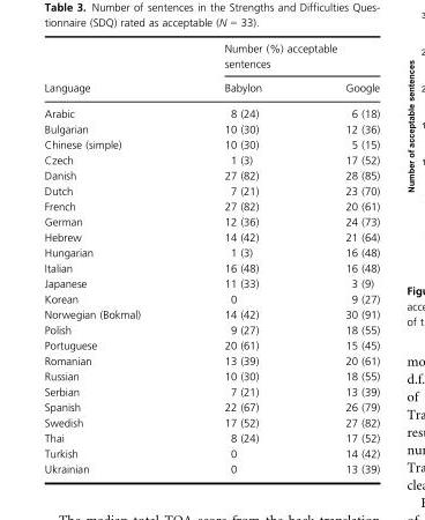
<table><thead><tr><td rowspan="2">Language</td><td colspan="2">Number (%) acceptable sentences</td></tr><tr><td>Babylon</td><td>Google</td></tr></thead><tbody><tr><td>Arabic</td><td>8 (24)</td><td>6 (18)</td></tr><tr><td>Bulgarian</td><td>10 (30)</td><td>12 (36)</td></tr><tr><td>Chinese (simple)</td><td>10 (30)</td><td>5 (15)</td></tr><tr><td>Czech</td><td>1 (3)</td><td>17 (52)</td></tr><tr><td>Danish</td><td>27 (82)</td><td>28 (85)</td></tr><tr><td>Dutch</td><td>7 (21)</td><td>23 (70)</td></tr><tr><td>French</td><td>27 (82)</td><td>20 (61)</td></tr><tr><td>German</td><td>12 (36)</td><td>24 (73)</td></tr><tr><td>Hebrew</td><td>14 (42)</td><td>21 (64)</td></tr><tr><td>Hungarian</td><td>1 (3)</td><td>16 (48)</td></tr><tr><td>Italian</td><td>16 (48)</td><td>16 (48)</td></tr><tr><td>Japanese</td><td>11 (33)</td><td>3 (9)</td></tr><tr><td>Korean</td><td>0</td><td>9 (27)</td></tr><tr><td>Norwegian (Bokmal)</td><td>14 (42)</td><td>30 (91)</td></tr><tr><td>Polish</td><td>9 (27)</td><td>18 (55)</td></tr><tr><td>Portuguese</td><td>20 (61)</td><td>15 (45)</td></tr><tr><td>Romanian</td><td>13 (39)</td><td>20 (61)</td></tr><tr><td>Russian</td><td>10 (30)</td><td>18 (55)</td></tr><tr><td>Serbian</td><td>7 (21)</td><td>13 (39)</td></tr><tr><td>Spanish</td><td>22 (67)</td><td>26 (79)</td></tr><tr><td>Swedish</td><td>17 (52)</td><td>27 (82)</td></tr><tr><td>Thai</td><td>8 (24)</td><td>17 (52)</td></tr><tr><td>Turkish</td><td>0</td><td>14 (42)</td></tr><tr><td>Ukrainian</td><td>0</td><td>13 (39)</td></tr></tbody></table>